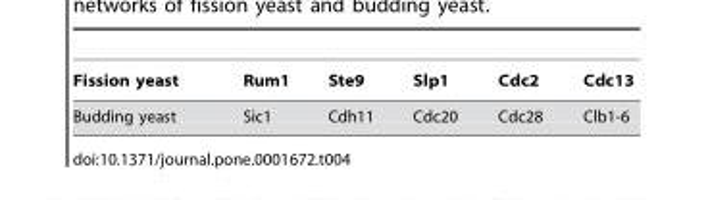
<table><thead><tr><td>Fission yeast</td><td>Rum1</td><td>Ste9</td><td>Slp1</td><td>Cdc2</td><td>Cdc13</td></tr></thead><tbody><tr><td>Budding yeast</td><td>Sic1</td><td>Cdh11</td><td>Cdc20</td><td>Cdc28</td><td>Clb1-6</td></tr></tbody></table>